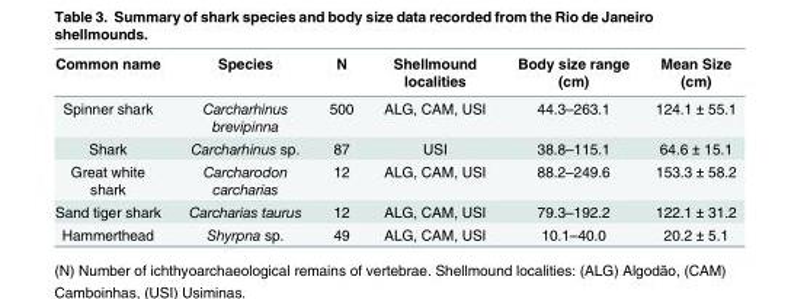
<table><thead><tr><td>Common name</td><td>Species</td><td>N</td><td>Shellmound localities</td><td>Body size range (cm)</td><td>Mean Size (cm)</td></tr></thead><tbody><tr><td>Spinner shark</td><td>Carcharhinus brevipinna</td><td>500</td><td>ALG, CAM, USI</td><td>44.3–263.1</td><td>124.1 ± 55.1</td></tr><tr><td>Shark</td><td>Carcharhinus sp.</td><td>87</td><td>USI</td><td>38.8–115.1</td><td>64.6 ± 15.1</td></tr><tr><td>Great white shark</td><td>Carcharodon carcharias</td><td>12</td><td>ALG, CAM, USI</td><td>88.2–249.6</td><td>153.3 ± 58.2</td></tr><tr><td>Sand tiger shark</td><td>Carcharias taurus</td><td>12</td><td>ALG, CAM, USI</td><td>79.3–192.2</td><td>122.1 ± 31.2</td></tr><tr><td>Hammerthead</td><td>Shyrpna sp.</td><td>49</td><td>ALG, CAM, USI</td><td>10.1–40.0</td><td>20.2 ± 5.1</td></tr></tbody></table>